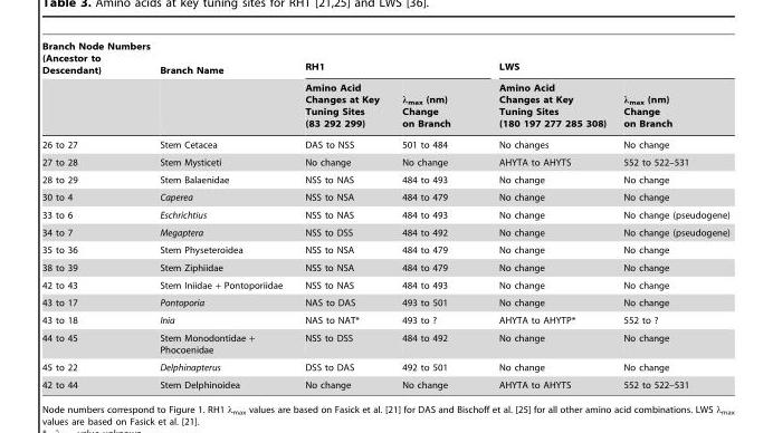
<table><thead><tr><td rowspan="2">Branch Node Numbers (Ancestor to Descendant)</td><td rowspan="2">Branch Name</td><td colspan="2">RH1</td><td colspan="2">LWS</td></tr><tr><td>Amino Acid Changes at Key Tuning Sites (83 292 299)</td><td>λ<sub>max</sub> (nm) Change on Branch</td><td>Amino Acid Changes at Key Tuning Sites (180 197 277 285 308)</td><td>λ<sub>max</sub> (nm) Change on Branch</td></tr></thead><tbody><tr><td>26 to 27</td><td>Stem Cetacea</td><td>DAS to NSS</td><td>501 to 484</td><td>No changes</td><td>No change</td></tr><tr><td>27 to 28</td><td>Stem Mysticeti</td><td>No change</td><td>No change</td><td>AHYTA to AHYTS</td><td>552 to 522–531</td></tr><tr><td>28 to 29</td><td>Stem Balaenidae</td><td>NSS to NAS</td><td>484 to 493</td><td>No change</td><td>No change</td></tr><tr><td>30 to 4</td><td>Caperea</td><td>NSS to NSA</td><td>484 to 479</td><td>No change</td><td>No change</td></tr><tr><td>33 to 6</td><td>Eschrichtius</td><td>NSS to NAS</td><td>484 to 493</td><td>No change</td><td>No change (pseudogene)</td></tr><tr><td>34 to 7</td><td>Megaptera</td><td>NSS to DSS</td><td>484 to 492</td><td>No change</td><td>No change (pseudogene)</td></tr><tr><td>35 to 36</td><td>Stem Physeteroidea</td><td>NSS to NSA</td><td>484 to 479</td><td>No change</td><td>No change</td></tr><tr><td>38 to 39</td><td>Stem Ziphiidae</td><td>NSS to NSA</td><td>484 to 479</td><td>No change</td><td>No change</td></tr><tr><td>42 to 43</td><td>Stem Iniidae + Pontoporiidae</td><td>NSS to NAS</td><td>484 to 493</td><td>No change</td><td>No change</td></tr><tr><td>43 to 17</td><td>Pontoporia</td><td>NAS to DAS</td><td>493 to 501</td><td>No change</td><td>No change</td></tr><tr><td>43 to 18</td><td>Inia</td><td>NAS to NAT*</td><td>493 to ?</td><td>AHYTA to AHYTP*</td><td>552 to ?</td></tr><tr><td>44 to 45</td><td>Stem Monodontidae + Phocoenidae</td><td>NSS to DSS</td><td>484 to 492</td><td>No change</td><td>No change</td></tr><tr><td>45 to 22</td><td>Delphinapterus</td><td>DSS to DAS</td><td>492 to 501</td><td>No change</td><td>No change</td></tr><tr><td>42 to 44</td><td>Stem Delphinoidea</td><td>No change</td><td>No change</td><td>AHYTA to AHYTS</td><td>552 to 522–531</td></tr></tbody></table>